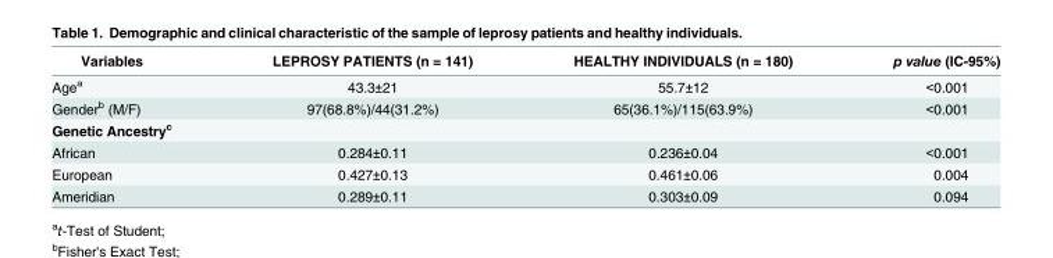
<table><thead><tr><td>Variables</td><td>LEPROSY PATIENTS (n = 141)</td><td>HEALTHY INDIVIDUALS (n = 180)</td><td>p value (IC-95%)</td></tr></thead><tbody><tr><td>Age<sup>a</sup></td><td>43.3±21</td><td>55.7±12</td><td>&lt;0.001</td></tr><tr><td>Gender<sup>b</sup> (M/F)</td><td>97(68.8%)/44(31.2%)</td><td>65(36.1%)/115(63.9%)</td><td>&lt;0.001</td></tr><tr><td colspan="4">Genetic Ancestry<sup>c</sup></td></tr><tr><td>African</td><td>0.284±0.11</td><td>0.236±0.04</td><td>&lt;0.001</td></tr><tr><td>European</td><td>0.427±0.13</td><td>0.461±0.06</td><td>0.004</td></tr><tr><td>Ameridian</td><td>0.289±0.11</td><td>0.303±0.09</td><td>0.094</td></tr></tbody></table>